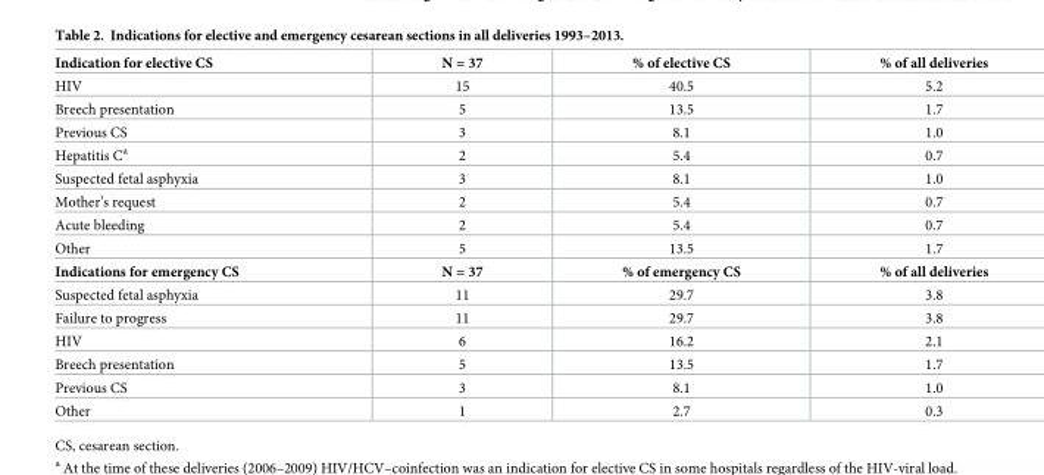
<table><tbody><tr><td>Indication for elective CS</td><td>N = 37</td><td>% of elective CS</td><td>% of all deliveries</td></tr><tr><td>HIV</td><td>15</td><td>40.5</td><td>5.2</td></tr><tr><td>Breech presentation</td><td>5</td><td>13.5</td><td>1.7</td></tr><tr><td>Previous CS</td><td>3</td><td>8.1</td><td>1.0</td></tr><tr><td>Hepatitis C<sup>a</sup></td><td>2</td><td>5.4</td><td>0.7</td></tr><tr><td>Suspected fetal asphyxia</td><td>3</td><td>8.1</td><td>1.0</td></tr><tr><td>Mother’s request</td><td>2</td><td>5.4</td><td>0.7</td></tr><tr><td>Acute bleeding</td><td>2</td><td>5.4</td><td>0.7</td></tr><tr><td>Other</td><td>5</td><td>13.5</td><td>1.7</td></tr><tr><td>Indications for emergency CS</td><td>N = 37</td><td>% of emergency CS</td><td>% of all deliveries</td></tr><tr><td>Suspected fetal asphyxia</td><td>11</td><td>29.7</td><td>3.8</td></tr><tr><td>Failure to progress</td><td>11</td><td>29.7</td><td>3.8</td></tr><tr><td>HIV</td><td>6</td><td>16.2</td><td>2.1</td></tr><tr><td>Breech presentation</td><td>5</td><td>13.5</td><td>1.7</td></tr><tr><td>Previous CS</td><td>3</td><td>8.1</td><td>1.0</td></tr><tr><td>Other</td><td>1</td><td>2.7</td><td>0.3</td></tr></tbody></table>